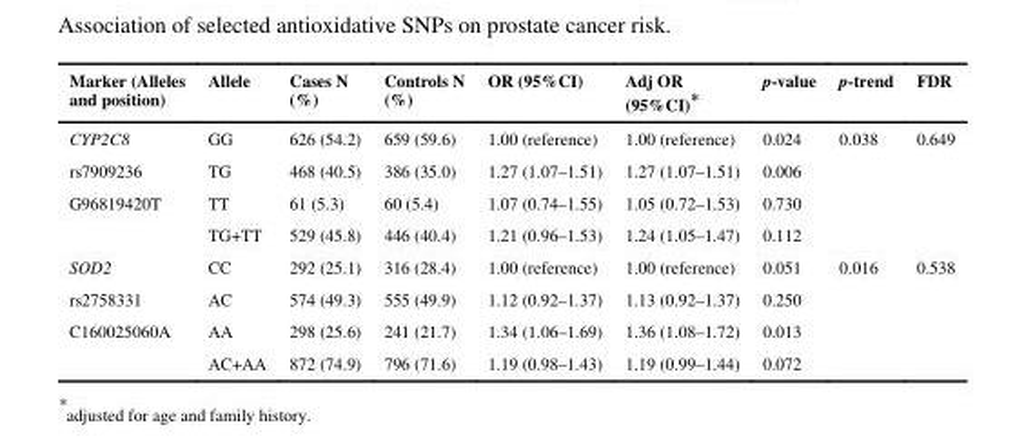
<table><thead><tr><td>Marker (Alleles and position)</td><td>Allele</td><td>Cases N (%)</td><td>Controls N (%)</td><td>OR (95%CI)</td><td>Adj OR (95%CI)*</td><td>p-value</td><td>p-trend</td><td>FDR</td></tr></thead><tbody><tr><td>CYP2C8</td><td>GG</td><td>626 (54.2)</td><td>659 (59.6)</td><td>1.00 (reference)</td><td>1.00 (reference)</td><td>0.024</td><td>0.038</td><td>0.649</td></tr><tr><td>rs7909236</td><td>TG</td><td>468 (40.5)</td><td>386 (35.0)</td><td>1.27 (1.07–1.51)</td><td>1.27 (1.07–1.51)</td><td>0.006</td><td></td><td></td></tr><tr><td rowspan="2">G96819420T</td><td>TT</td><td>61 (5.3)</td><td>60 (5.4)</td><td>1.07 (0.74–1.55)</td><td>1.05 (0.72–1.53)</td><td>0.730</td><td></td><td></td></tr><tr><td>TG+TT</td><td>529 (45.8)</td><td>446 (40.4)</td><td>1.21 (0.96–1.53)</td><td>1.24 (1.05–1.47)</td><td>0.112</td><td></td><td></td></tr><tr><td>SOD2</td><td>CC</td><td>292 (25.1)</td><td>316 (28.4)</td><td>1.00 (reference)</td><td>1.00 (reference)</td><td>0.051</td><td>0.016</td><td>0.538</td></tr><tr><td>rs2758331</td><td>AC</td><td>574 (49.3)</td><td>555 (49.9)</td><td>1.12 (0.92–1.37)</td><td>1.13 (0.92–1.37)</td><td>0.250</td><td></td><td></td></tr><tr><td rowspan="2">C160025060A</td><td>AA</td><td>298 (25.6)</td><td>241 (21.7)</td><td>1.34 (1.06–1.69)</td><td>1.36 (1.08–1.72)</td><td>0.013</td><td></td><td></td></tr><tr><td>AC+AA</td><td>872 (74.9)</td><td>796 (71.6)</td><td>1.19 (0.98–1.43)</td><td>1.19 (0.99–1.44)</td><td>0.072</td><td></td><td></td></tr></tbody></table>